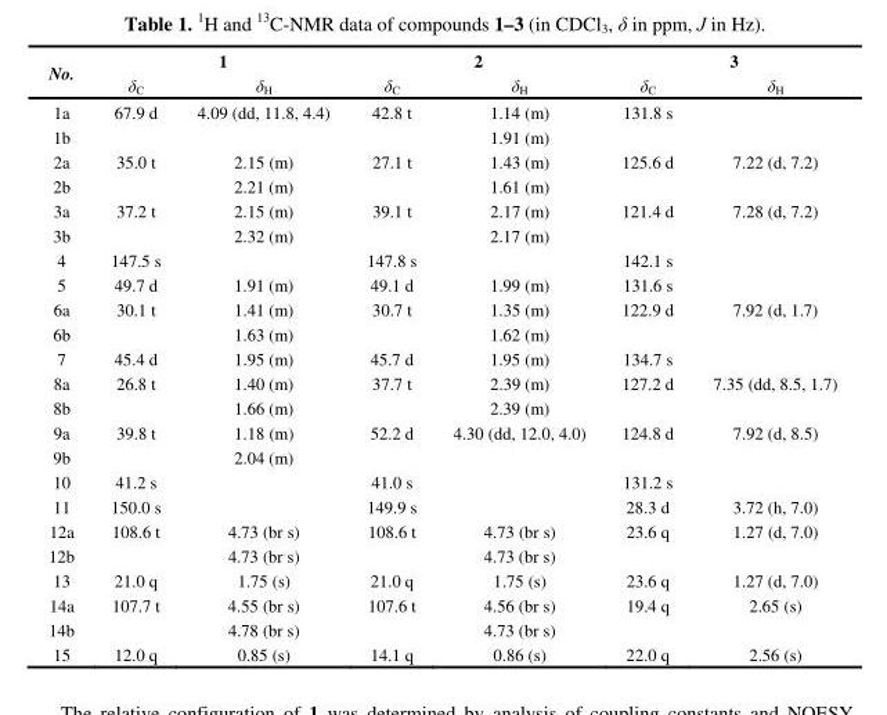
<table><thead><tr><td rowspan="2">No.</td><td colspan="2">1</td><td colspan="2">2</td><td colspan="2">3</td></tr><tr><td>δ<sub>C</sub></td><td>δ<sub>H</sub></td><td>δ<sub>C</sub></td><td>δ<sub>H</sub></td><td>δ<sub>C</sub></td><td>δ<sub>H</sub></td></tr></thead><tbody><tr><td>1a</td><td>67.9 d</td><td>4.09 (dd, 11.8, 4.4)</td><td>42.8 t</td><td>1.14 (m)</td><td>131.8 s</td><td></td></tr><tr><td>1b</td><td></td><td></td><td></td><td>1.91 (m)</td><td></td><td></td></tr><tr><td>2a</td><td>35.0 t</td><td>2.15 (m)</td><td>27.1 t</td><td>1.43 (m)</td><td>125.6 d</td><td>7.22 (d, 7.2)</td></tr><tr><td>2b</td><td></td><td>2.21 (m)</td><td></td><td>1.61 (m)</td><td></td><td></td></tr><tr><td>3a</td><td>37.2 t</td><td>2.15 (m)</td><td>39.1 t</td><td>2.17 (m)</td><td>121.4 d</td><td>7.28 (d, 7.2)</td></tr><tr><td>3b</td><td></td><td>2.32 (m)</td><td></td><td>2.17 (m)</td><td></td><td></td></tr><tr><td>4</td><td>147.5 s</td><td></td><td>147.8 s</td><td></td><td>142.1 s</td><td></td></tr><tr><td>5</td><td>49.7 d</td><td>1.91 (m)</td><td>49.1 d</td><td>1.99 (m)</td><td>131.6 s</td><td></td></tr><tr><td>6a</td><td>30.1 t</td><td>1.41 (m)</td><td>30.7 t</td><td>1.35 (m)</td><td>122.9 d</td><td>7.92 (d, 1.7)</td></tr><tr><td>6b</td><td></td><td>1.63 (m)</td><td></td><td>1.62 (m)</td><td></td><td></td></tr><tr><td>7</td><td>45.4 d</td><td>1.95 (m)</td><td>45.7 d</td><td>1.95 (m)</td><td>134.7 s</td><td></td></tr><tr><td>8a</td><td>26.8 t</td><td>1.40 (m)</td><td>37.7 t</td><td>2.39 (m)</td><td>127.2 d</td><td>7.35 (dd, 8.5, 1.7)</td></tr><tr><td>8b</td><td></td><td>1.66 (m)</td><td></td><td>2.39 (m)</td><td></td><td></td></tr><tr><td>9a</td><td>39.8 t</td><td>1.18 (m)</td><td>52.2 d</td><td>4.30 (dd, 12.0, 4.0)</td><td>124.8 d</td><td>7.92 (d, 8.5)</td></tr><tr><td>9b</td><td></td><td>2.04 (m)</td><td></td><td></td><td></td><td></td></tr><tr><td>10</td><td>41.2 s</td><td></td><td>41.0 s</td><td></td><td>131.2 s</td><td></td></tr><tr><td>11</td><td>150.0 s</td><td></td><td>149.9 s</td><td></td><td>28.3 d</td><td>3.72 (h, 7.0)</td></tr><tr><td>12a</td><td>108.6 t</td><td>4.73 (br s)</td><td>108.6 t</td><td>4.73 (br s)</td><td>23.6 q</td><td>1.27 (d, 7.0)</td></tr><tr><td>12b</td><td></td><td>4.73 (br s)</td><td></td><td>4.73 (br s)</td><td></td><td></td></tr><tr><td>13</td><td>21.0 q</td><td>1.75 (s)</td><td>21.0 q</td><td>1.75 (s)</td><td>23.6 q</td><td>1.27 (d, 7.0)</td></tr><tr><td>14a</td><td>107.7 t</td><td>4.55 (br s)</td><td>107.6 t</td><td>4.56 (br s)</td><td>19.4 q</td><td>2.65 (s)</td></tr><tr><td>14b</td><td></td><td>4.78 (br s)</td><td></td><td>4.73 (br s)</td><td></td><td></td></tr><tr><td>15</td><td>12.0 q</td><td>0.85 (s)</td><td>14.1 q</td><td>0.86 (s)</td><td>22.0 q</td><td>2.56 (s)</td></tr></tbody></table>